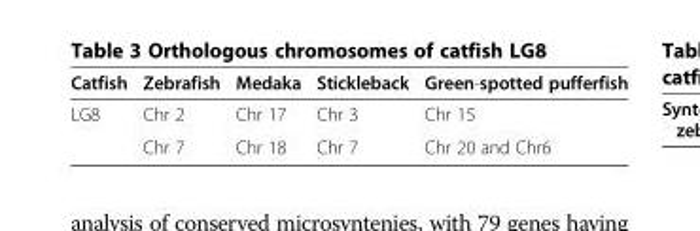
<table><thead><tr><td>Catfish</td><td>Zebrafish</td><td>Medaka</td><td>Stickleback</td><td>Green-spotted pufferfish</td></tr></thead><tbody><tr><td rowspan="2">LG8</td><td>Chr 2</td><td>Chr 17</td><td>Chr 3</td><td>Chr 15</td></tr><tr><td>Chr 7</td><td>Chr 18</td><td>Chr 7</td><td>Chr 20 and Chr6</td></tr></tbody></table>